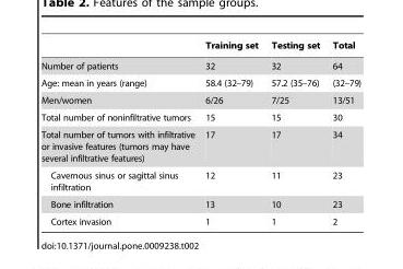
<table><thead><tr><td></td><td>Training set</td><td>Testing set</td><td>Total</td></tr></thead><tbody><tr><td>Number of patients</td><td>32</td><td>32</td><td>64</td></tr><tr><td>Age: mean in years (range)</td><td>58.4 (32–79)</td><td>57.2 (35–76)</td><td>(32–79)</td></tr><tr><td>Men/women</td><td>6/26</td><td>7/25</td><td>13/51</td></tr><tr><td>Total number of noninfiltrative tumors</td><td>15</td><td>15</td><td>30</td></tr><tr><td>Total number of tumors with infiltrative or invasive features (tumors may have several infiltrative features)</td><td>17</td><td>17</td><td>34</td></tr><tr><td>Cavernous sinus or sagittal sinus infiltration</td><td>12</td><td>11</td><td>23</td></tr><tr><td>Bone infiltration</td><td>13</td><td>10</td><td>23</td></tr><tr><td>Cortex invasion</td><td>1</td><td>1</td><td>2</td></tr></tbody></table>